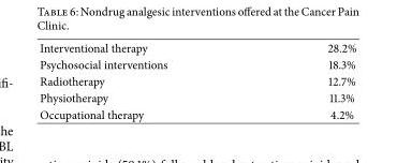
<table><tbody><tr><td>Interventional therapy</td><td>28.2%</td></tr><tr><td>Psychosocial interventions</td><td>18.3%</td></tr><tr><td>Radiotherapy</td><td>12.7%</td></tr><tr><td>Physiotherapy</td><td>11.3%</td></tr><tr><td>Occupational therapy</td><td>4.2%</td></tr></tbody></table>